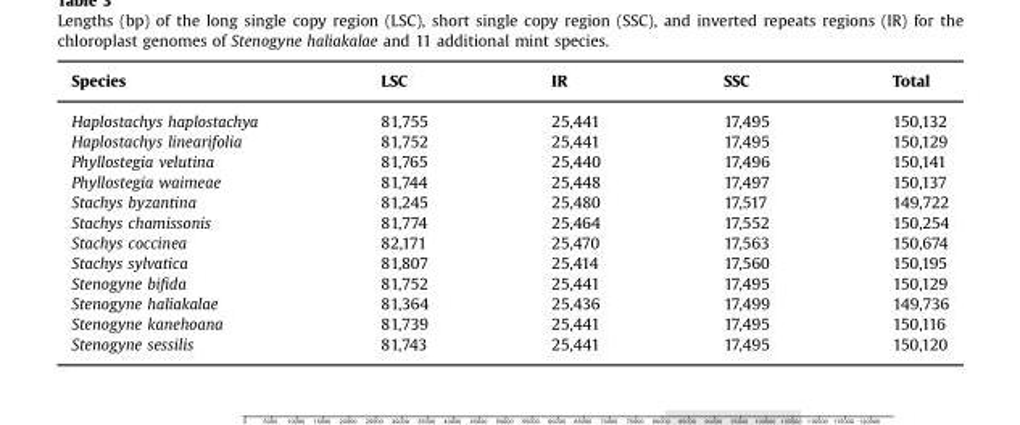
<table><thead><tr><td>Species</td><td>LSC</td><td>IR</td><td>SSC</td><td>Total</td></tr></thead><tbody><tr><td>Haplostachys haplostachya</td><td>81,755</td><td>25,441</td><td>17,495</td><td>150,132</td></tr><tr><td>Haplostachys linearifolia</td><td>81,752</td><td>25,441</td><td>17,495</td><td>150,129</td></tr><tr><td>Phyllostegia velutina</td><td>81,765</td><td>25,440</td><td>17,496</td><td>150,141</td></tr><tr><td>Phyllostegia waimeae</td><td>81,744</td><td>25,448</td><td>17,497</td><td>150,137</td></tr><tr><td>Stachys byzantina</td><td>81,245</td><td>25,480</td><td>17,517</td><td>149,722</td></tr><tr><td>Stachys chamissonis</td><td>81,774</td><td>25,464</td><td>17,552</td><td>150,254</td></tr><tr><td>Stachys coccinea</td><td>82,171</td><td>25,470</td><td>17,563</td><td>150,674</td></tr><tr><td>Stachys sylvatica</td><td>81,807</td><td>25,414</td><td>17,560</td><td>150,195</td></tr><tr><td>Stenogyne bifida</td><td>81,752</td><td>25,441</td><td>17,495</td><td>150,129</td></tr><tr><td>Stenogyne haliakalae</td><td>81,364</td><td>25,436</td><td>17,499</td><td>149,736</td></tr><tr><td>Stenogyne kanehoana</td><td>81,739</td><td>25,441</td><td>17,495</td><td>150,116</td></tr><tr><td>Stenogyne sessilis</td><td>81,743</td><td>25,441</td><td>17,495</td><td>150,120</td></tr></tbody></table>